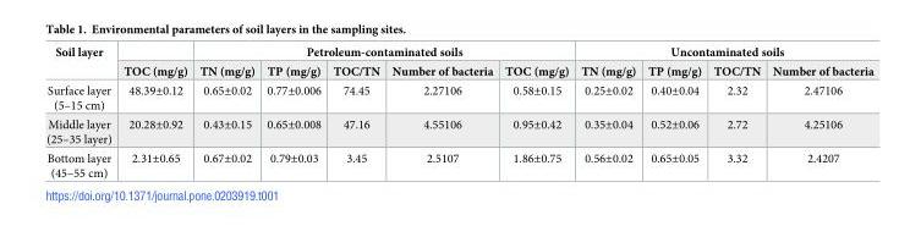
<table><thead><tr><td rowspan="2">Soil layer</td><td rowspan="2">TOC (mg/g)</td><td colspan="5">Petroleum-contaminated soils</td><td colspan="4">Uncontaminated soils</td></tr><tr><td>TN (mg/g)</td><td>TP (mg/g)</td><td>TOC/TN</td><td>Number of bacteria</td><td>TOC (mg/g)</td><td>TN (mg/g)</td><td>TP (mg/g)</td><td>TOC/TN</td><td>Number of bacteria</td></tr></thead><tbody><tr><td>Surface layer (5–15 cm)</td><td>48.39±0.12</td><td>0.65±0.02</td><td>0.77±0.006</td><td>74.45</td><td>2.27106</td><td>0.58±0.15</td><td>0.25±0.02</td><td>0.40±0.04</td><td>2.32</td><td>2.47106</td></tr><tr><td>Middle layer (25–35 layer)</td><td>20.28±0.92</td><td>0.43±0.15</td><td>0.65±0.008</td><td>47.16</td><td>4.55106</td><td>0.95±0.42</td><td>0.35±0.04</td><td>0.52±0.06</td><td>2.72</td><td>4.25106</td></tr><tr><td>Bottom layer (45–55 cm)</td><td>2.31±0.65</td><td>0.67±0.02</td><td>0.79±0.03</td><td>3.45</td><td>2.5107</td><td>1.86±0.75</td><td>0.56±0.02</td><td>0.65±0.05</td><td>3.32</td><td>2.4207</td></tr></tbody></table>